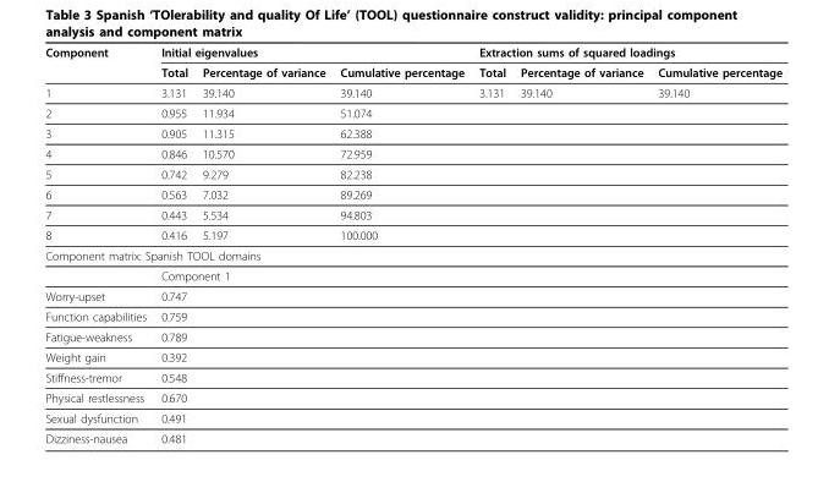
<table><thead><tr><td rowspan="2">Component</td><td colspan="3">Initial eigenvalues</td><td colspan="3">Extraction sums of squared loadings</td></tr><tr><td>Total</td><td>Percentage of variance</td><td>Cumulative percentage</td><td>Total</td><td>Percentage of variance</td><td>Cumulative percentage</td></tr></thead><tbody><tr><td>1</td><td>3.131</td><td>39.140</td><td>39.140</td><td>3.131</td><td>39.140</td><td>39.140</td></tr><tr><td>2</td><td>0.955</td><td>11.934</td><td>51.074</td><td></td><td></td><td></td></tr><tr><td>3</td><td>0.905</td><td>11.315</td><td>62.388</td><td></td><td></td><td></td></tr><tr><td>4</td><td>0.846</td><td>10.570</td><td>72.959</td><td></td><td></td><td></td></tr><tr><td>5</td><td>0.742</td><td>9.279</td><td>82.238</td><td></td><td></td><td></td></tr><tr><td>6</td><td>0.563</td><td>7.032</td><td>89.269</td><td></td><td></td><td></td></tr><tr><td>7</td><td>0.443</td><td>5.534</td><td>94.803</td><td></td><td></td><td></td></tr><tr><td>8</td><td>0.416</td><td>5.197</td><td>100.000</td><td></td><td></td><td></td></tr><tr><td colspan="7">Component matrix: Spanish TOOL domains</td></tr><tr><td></td><td colspan="6">Component 1</td></tr><tr><td>Worry-upset</td><td colspan="6">0.747</td></tr><tr><td>Function capabilities</td><td colspan="6">0.759</td></tr><tr><td>Fatigue-weakness</td><td colspan="6">0.789</td></tr><tr><td>Weight gain</td><td colspan="6">0.392</td></tr><tr><td>Stiffness-tremor</td><td colspan="6">0.548</td></tr><tr><td>Physical restlessness</td><td colspan="6">0.670</td></tr><tr><td>Sexual dysfunction</td><td colspan="6">0.491</td></tr><tr><td>Dizziness-nausea</td><td colspan="6">0.481</td></tr></tbody></table>